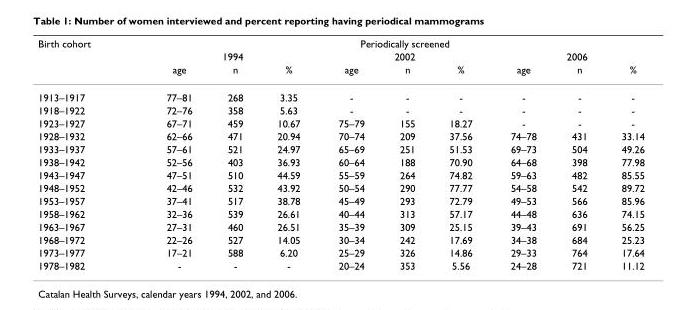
<table><thead><tr><td rowspan="3">Birth cohort</td><td colspan="9">Periodically screened</td></tr><tr><td colspan="3">1994</td><td colspan="3">2002</td><td colspan="3">2006</td></tr><tr><td>age</td><td>n</td><td>%</td><td>age</td><td>n</td><td>%</td><td>age</td><td>n</td><td>%</td></tr></thead><tbody><tr><td>1913–1917</td><td>77–81</td><td>268</td><td>3.35</td><td>-</td><td>-</td><td>-</td><td>-</td><td>-</td><td>-</td></tr><tr><td>1918–1922</td><td>72–76</td><td>358</td><td>5.63</td><td>-</td><td>-</td><td>-</td><td>-</td><td>-</td><td>-</td></tr><tr><td>1923–1927</td><td>67–71</td><td>459</td><td>10.67</td><td>75–79</td><td>155</td><td>18.27</td><td>-</td><td>-</td><td>-</td></tr><tr><td>1928–1932</td><td>62–66</td><td>471</td><td>20.94</td><td>70–74</td><td>209</td><td>37.56</td><td>74–78</td><td>431</td><td>33.14</td></tr><tr><td>1933–1937</td><td>57–61</td><td>521</td><td>24.97</td><td>65–69</td><td>251</td><td>51.53</td><td>69–73</td><td>504</td><td>49.26</td></tr><tr><td>1938–1942</td><td>52–56</td><td>403</td><td>36.93</td><td>60–64</td><td>188</td><td>70.90</td><td>64–68</td><td>398</td><td>77.98</td></tr><tr><td>1943–1947</td><td>47–51</td><td>510</td><td>44.59</td><td>55–59</td><td>264</td><td>74.82</td><td>59–63</td><td>482</td><td>85.55</td></tr><tr><td>1948–1952</td><td>42–46</td><td>532</td><td>43.92</td><td>50–54</td><td>290</td><td>77.77</td><td>54–58</td><td>542</td><td>89.72</td></tr><tr><td>1953–1957</td><td>37–41</td><td>517</td><td>38.78</td><td>45–49</td><td>293</td><td>72.79</td><td>49–53</td><td>566</td><td>85.96</td></tr><tr><td>1958–1962</td><td>32–36</td><td>539</td><td>26.61</td><td>40–44</td><td>313</td><td>57.17</td><td>44–48</td><td>636</td><td>74.15</td></tr><tr><td>1963–1967</td><td>27–31</td><td>460</td><td>26.51</td><td>35–39</td><td>309</td><td>25.15</td><td>39–43</td><td>691</td><td>56.25</td></tr><tr><td>1968–1972</td><td>22–26</td><td>527</td><td>14.05</td><td>30–34</td><td>242</td><td>17.69</td><td>34–38</td><td>684</td><td>25.23</td></tr><tr><td>1973–1977</td><td>17–21</td><td>588</td><td>6.20</td><td>25–29</td><td>326</td><td>14.86</td><td>29–33</td><td>764</td><td>17.64</td></tr><tr><td>1978–1982</td><td>-</td><td>-</td><td>-</td><td>20–24</td><td>353</td><td>5.56</td><td>24–28</td><td>721</td><td>11.12</td></tr></tbody></table>